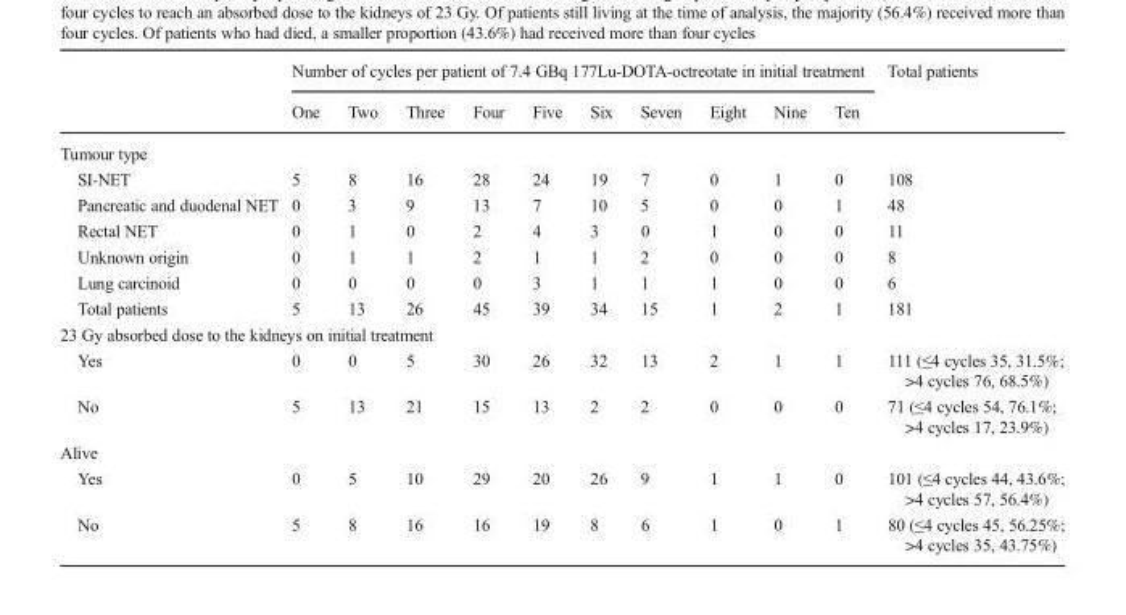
<table><thead><tr><td rowspan="2"></td><td colspan="10">Number of cycles per patient of 7.4 GBq 177Lu-DOTA-octreotate in initial treatment</td><td rowspan="2">Total patients</td></tr><tr><td>One</td><td>Two</td><td>Three</td><td>Four</td><td>Five</td><td>Six</td><td>Seven</td><td>Eight</td><td>Nine</td><td>Ten</td></tr></thead><tbody><tr><td colspan="12">Tumour type</td></tr><tr><td>SI-NET</td><td>5</td><td>8</td><td>16</td><td>28</td><td>24</td><td>19</td><td>7</td><td>0</td><td>1</td><td>0</td><td>108</td></tr><tr><td>Pancreatic and duodenal NET</td><td>0</td><td>3</td><td>9</td><td>13</td><td>7</td><td>10</td><td>5</td><td>0</td><td>0</td><td>1</td><td>48</td></tr><tr><td>Rectal NET</td><td>0</td><td>1</td><td>0</td><td>2</td><td>4</td><td>3</td><td>0</td><td>1</td><td>0</td><td>0</td><td>11</td></tr><tr><td>Unknown origin</td><td>0</td><td>1</td><td>1</td><td>2</td><td>1</td><td>1</td><td>2</td><td>0</td><td>0</td><td>0</td><td>8</td></tr><tr><td>Lung carcinoid</td><td>0</td><td>0</td><td>0</td><td>0</td><td>3</td><td>1</td><td>1</td><td>1</td><td>0</td><td>0</td><td>6</td></tr><tr><td>Total patients</td><td>5</td><td>13</td><td>26</td><td>45</td><td>39</td><td>34</td><td>15</td><td>1</td><td>2</td><td>1</td><td>181</td></tr><tr><td colspan="12">23 Gy absorbed dose to the kidneys on initial treatment</td></tr><tr><td>Yes</td><td>0</td><td>0</td><td>5</td><td>30</td><td>26</td><td>32</td><td>13</td><td>2</td><td>1</td><td>1</td><td>111 (≤4 cycles 35, 31.5%; &gt;4 cycles 76, 68.5%)</td></tr><tr><td>No</td><td>5</td><td>13</td><td>21</td><td>15</td><td>13</td><td>2</td><td>2</td><td>0</td><td>0</td><td>0</td><td>71 (≤4 cycles 54, 76.1%; &gt;4 cycles 17, 23.9%)</td></tr><tr><td colspan="12">Alive</td></tr><tr><td>Yes</td><td>0</td><td>5</td><td>10</td><td>29</td><td>20</td><td>26</td><td>9</td><td>1</td><td>1</td><td>0</td><td>101 (≤4 cycles 44, 43.6%; &gt;4 cycles 57, 56.4%)</td></tr><tr><td>No</td><td>5</td><td>8</td><td>16</td><td>16</td><td>19</td><td>8</td><td>6</td><td>1</td><td>0</td><td>1</td><td>80 (≤4 cycles 45, 56.25%; &gt;4 cycles 35, 43.75%)</td></tr></tbody></table>